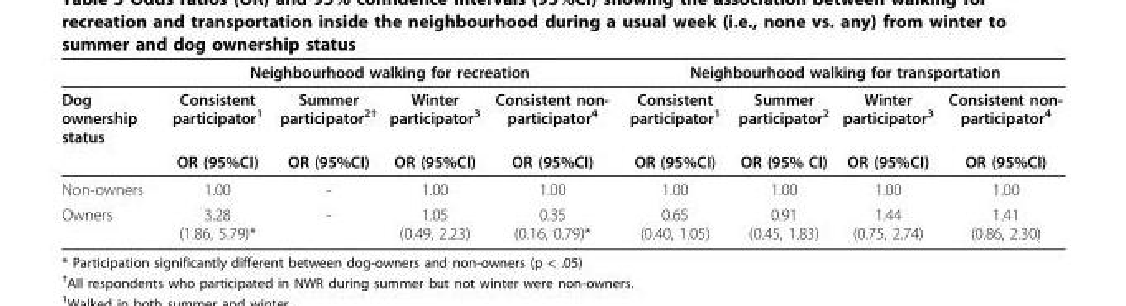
<table><thead><tr><td rowspan="2">Dog ownership status</td><td colspan="4">Neighbourhood walking for recreation</td><td colspan="4">Neighbourhood walking for transportation</td></tr><tr><td>Consistent participator<sup>1</sup></td><td>Summer participator<sup>2†</sup></td><td>Winter participator<sup>3</sup></td><td>Consistent non- participator<sup>4</sup></td><td>Consistent participator<sup>1</sup></td><td>Summer participator<sup>2</sup></td><td>Winter participator<sup>3</sup></td><td>Consistent non- participator<sup>4</sup></td></tr></thead><tbody><tr><td></td><td>OR (95%CI)</td><td>OR (95%CI)</td><td>OR (95%CI)</td><td>OR (95%CI)</td><td>OR (95%CI)</td><td>OR (95% CI)</td><td>OR (95%CI)</td><td>OR (95%CI)</td></tr><tr><td>Non-owners</td><td>1.00</td><td>-</td><td>1.00</td><td>1.00</td><td>1.00</td><td>1.00</td><td>1.00</td><td>1.00</td></tr><tr><td>Owners</td><td>3.28 (1.86, 5.79)*</td><td>-</td><td>1.05 (0.49, 2.23)</td><td>0.35 (0.16, 0.79)*</td><td>0.65 (0.40, 1.05)</td><td>0.91 (0.45, 1.83)</td><td>1.44 (0.75, 2.74)</td><td>1.41 (0.86, 2.30)</td></tr></tbody></table>